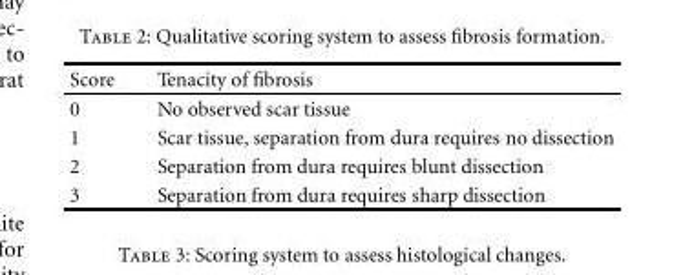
<table><thead><tr><td>Score</td><td>Tenacity of fibrosis</td></tr></thead><tbody><tr><td>0</td><td>No observed scar tissue</td></tr><tr><td>1</td><td>Scar tissue, separation from dura requires no dissection</td></tr><tr><td>2</td><td>Separation from dura requires blunt dissection</td></tr><tr><td>3</td><td>Separation from dura requires sharp dissection</td></tr></tbody></table>